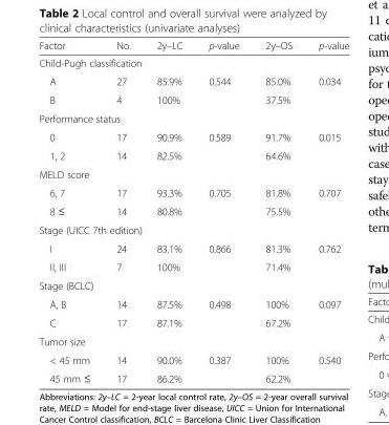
<table><thead><tr><td>Factor</td><td>No.</td><td>2y–LC</td><td>p-value</td><td>2y–OS</td><td>p-value</td></tr></thead><tbody><tr><td colspan="6">Child-Pugh classification</td></tr><tr><td>A</td><td>27</td><td>85.9%</td><td>0.544</td><td>85.0%</td><td>0.034</td></tr><tr><td>B</td><td>4</td><td>100%</td><td></td><td>37.5%</td><td></td></tr><tr><td colspan="6">Performance status</td></tr><tr><td>0</td><td>17</td><td>90.9%</td><td>0.589</td><td>91.7%</td><td>0.015</td></tr><tr><td>1, 2</td><td>14</td><td>82.5%</td><td></td><td>64.6%</td><td></td></tr><tr><td colspan="6">MELD score</td></tr><tr><td>6, 7</td><td>17</td><td>93.3%</td><td>0.705</td><td>81.8%</td><td>0.707</td></tr><tr><td>8 ≤</td><td>14</td><td>80.8%</td><td></td><td>75.5%</td><td></td></tr><tr><td colspan="6">Stage (UICC 7th edition)</td></tr><tr><td>I</td><td>24</td><td>83.1%</td><td>0.866</td><td>81.3%</td><td>0.762</td></tr><tr><td>II, III</td><td>7</td><td>100%</td><td></td><td>71.4%</td><td></td></tr><tr><td colspan="6">Stage (BCLC)</td></tr><tr><td>A, B</td><td>14</td><td>87.5%</td><td>0.498</td><td>100%</td><td>0.097</td></tr><tr><td>C</td><td>17</td><td>87.1%</td><td></td><td>67.2%</td><td></td></tr><tr><td colspan="6">Tumor size</td></tr><tr><td>&lt; 45 mm</td><td>14</td><td>90.0%</td><td>0.387</td><td>100%</td><td>0.540</td></tr><tr><td>45 mm ≤</td><td>17</td><td>86.2%</td><td></td><td>62.2%</td><td></td></tr></tbody></table>